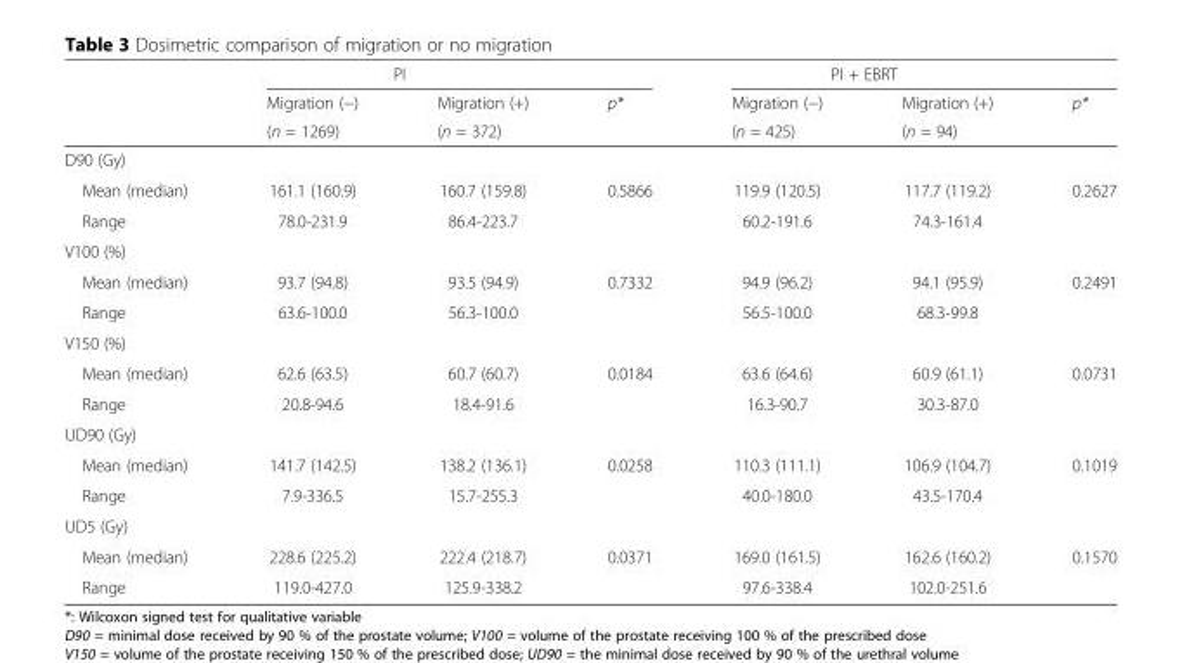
<table><thead><tr><td rowspan="3"></td><td colspan="3">PI</td><td colspan="3">PI + EBRT</td></tr><tr><td rowspan="2">Migration (−) (n = 1269)</td><td rowspan="2">Migration (+) (n = 372)</td><td rowspan="2">p*</td><td rowspan="2">Migration (−) (n = 425)</td><td rowspan="2">Migration (+) (n = 94)</td><td rowspan="2">p*</td></tr><tr></tr></thead><tbody><tr><td colspan="7">D90 (Gy)</td></tr><tr><td>Mean (median)</td><td>161.1 (160.9)</td><td>160.7 (159.8)</td><td>0.5866</td><td>119.9 (120.5)</td><td>117.7 (119.2)</td><td>0.2627</td></tr><tr><td>Range</td><td>78.0-231.9</td><td>86.4-223.7</td><td></td><td>60.2-191.6</td><td>74.3-161.4</td><td></td></tr><tr><td colspan="7">V100 (%)</td></tr><tr><td>Mean (median)</td><td>93.7 (94.8)</td><td>93.5 (94.9)</td><td>0.7332</td><td>94.9 (96.2)</td><td>94.1 (95.9)</td><td>0.2491</td></tr><tr><td>Range</td><td>63.6-100.0</td><td>56.3-100.0</td><td></td><td>56.5-100.0</td><td>68.3-99.8</td><td></td></tr><tr><td colspan="7">V150 (%)</td></tr><tr><td>Mean (median)</td><td>62.6 (63.5)</td><td>60.7 (60.7)</td><td>0.0184</td><td>63.6 (64.6)</td><td>60.9 (61.1)</td><td>0.0731</td></tr><tr><td>Range</td><td>20.8-94.6</td><td>18.4-91.6</td><td></td><td>16.3-90.7</td><td>30.3-87.0</td><td></td></tr><tr><td colspan="7">UD90 (Gy)</td></tr><tr><td>Mean (median)</td><td>141.7 (142.5)</td><td>138.2 (136.1)</td><td>0.0258</td><td>110.3 (111.1)</td><td>106.9 (104.7)</td><td>0.1019</td></tr><tr><td>Range</td><td>7.9-336.5</td><td>15.7-255.3</td><td></td><td>40.0-180.0</td><td>43.5-170.4</td><td></td></tr><tr><td colspan="7">UD5 (Gy)</td></tr><tr><td>Mean (median)</td><td>228.6 (225.2)</td><td>222.4 (218.7)</td><td>0.0371</td><td>169.0 (161.5)</td><td>162.6 (160.2)</td><td>0.1570</td></tr><tr><td>Range</td><td>119.0-427.0</td><td>125.9-338.2</td><td></td><td>97.6-338.4</td><td>102.0-251.6</td><td></td></tr></tbody></table>